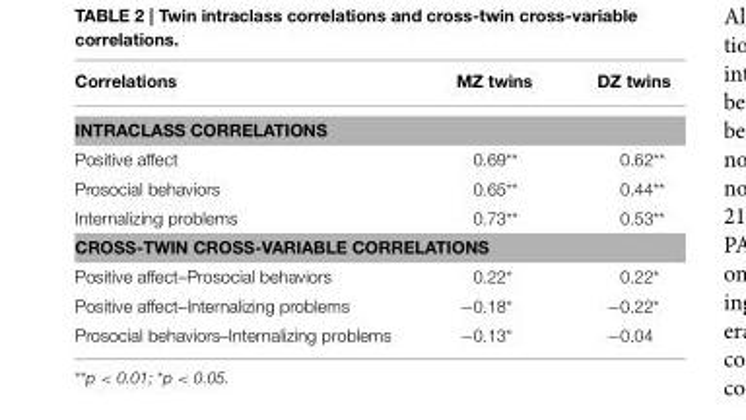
<table><thead><tr><td>Correlations</td><td>MZ twins</td><td>DZ twins</td></tr></thead><tbody><tr><td colspan="3">INTRACLASS CORRELATIONS</td></tr><tr><td>Positive affect</td><td>0.69**</td><td>0.62**</td></tr><tr><td>Prosocial behaviors</td><td>0.65**</td><td>0.44**</td></tr><tr><td>Internalizing problems</td><td>0.73**</td><td>0.53**</td></tr><tr><td colspan="3">CROSS-TWIN CROSS-VARIABLE CORRELATIONS</td></tr><tr><td>Positive affect–Prosocial behaviors</td><td>0.22*</td><td>0.22*</td></tr><tr><td>Positive affect–Internalizing problems</td><td>−0.18*</td><td>−0.22*</td></tr><tr><td>Prosocial behaviors–Internalizing problems</td><td>−0.13*</td><td>−0.04</td></tr></tbody></table>